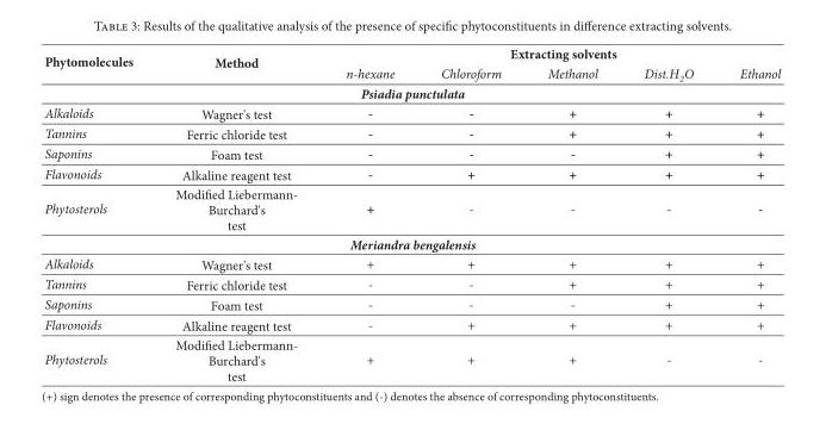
<table><thead><tr><td rowspan="2">Phytomolecules</td><td rowspan="2">Method</td><td colspan="5">Extracting solvents</td></tr><tr><td>n-hexane</td><td>Chloroform</td><td>Methanol</td><td>Dist.H<sub>2</sub>O</td><td>Ethanol</td></tr></thead><tbody><tr><td colspan="7">Psiadia punctulata</td></tr><tr><td>Alkaloids</td><td>Wagner&#x27;s test</td><td>-</td><td>-</td><td>+</td><td>+</td><td>+</td></tr><tr><td>Tannins</td><td>Ferric chloride test</td><td>-</td><td>-</td><td>+</td><td>+</td><td>+</td></tr><tr><td>Saponins</td><td>Foam test</td><td>-</td><td>-</td><td>-</td><td>+</td><td>+</td></tr><tr><td>Flavonoids</td><td>Alkaline reagent test</td><td>-</td><td>+</td><td>+</td><td>+</td><td>+</td></tr><tr><td>Phytosterols</td><td>Modified Liebermann- Burchard&#x27;s test</td><td>+</td><td>-</td><td>-</td><td>-</td><td>-</td></tr><tr><td colspan="7">Meriandra bengalensis</td></tr><tr><td>Alkaloids</td><td>Wagner&#x27;s test</td><td>+</td><td>+</td><td>+</td><td>+</td><td>+</td></tr><tr><td>Tannins</td><td>Ferric chloride test</td><td>-</td><td>-</td><td>+</td><td>+</td><td>+</td></tr><tr><td>Saponins</td><td>Foam test</td><td>-</td><td>-</td><td>-</td><td>+</td><td>+</td></tr><tr><td>Flavonoids</td><td>Alkaline reagent test</td><td>-</td><td>+</td><td>+</td><td>+</td><td>+</td></tr><tr><td>Phytosterols</td><td>Modified Liebermann- Burchard&#x27;s test</td><td>+</td><td>+</td><td>+</td><td>-</td><td>-</td></tr></tbody></table>